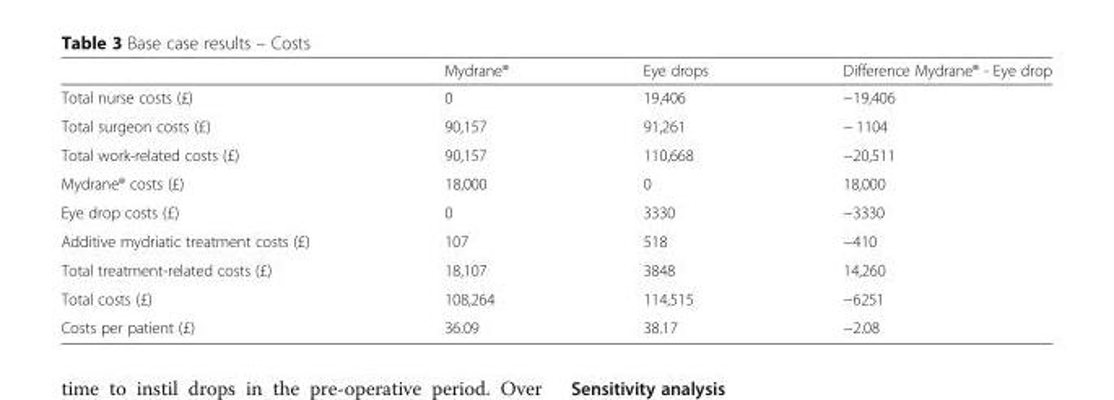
<table><thead><tr><td></td><td>Mydrane®</td><td>Eye drops</td><td>Difference Mydrane® - Eye drop</td></tr></thead><tbody><tr><td>Total nurse costs (£)</td><td>0</td><td>19,406</td><td>−19,406</td></tr><tr><td>Total surgeon costs (£)</td><td>90,157</td><td>91,261</td><td>− 1104</td></tr><tr><td>Total work-related costs (£)</td><td>90,157</td><td>110,668</td><td>−20,511</td></tr><tr><td>Mydrane® costs (£)</td><td>18,000</td><td>0</td><td>18,000</td></tr><tr><td>Eye drop costs (£)</td><td>0</td><td>3330</td><td>−3330</td></tr><tr><td>Additive mydriatic treatment costs (£)</td><td>107</td><td>518</td><td>−410</td></tr><tr><td>Total treatment-related costs (£)</td><td>18,107</td><td>3848</td><td>14,260</td></tr><tr><td>Total costs (£)</td><td>108,264</td><td>114,515</td><td>−6251</td></tr><tr><td>Costs per patient (£)</td><td>36.09</td><td>38.17</td><td>−2.08</td></tr></tbody></table>